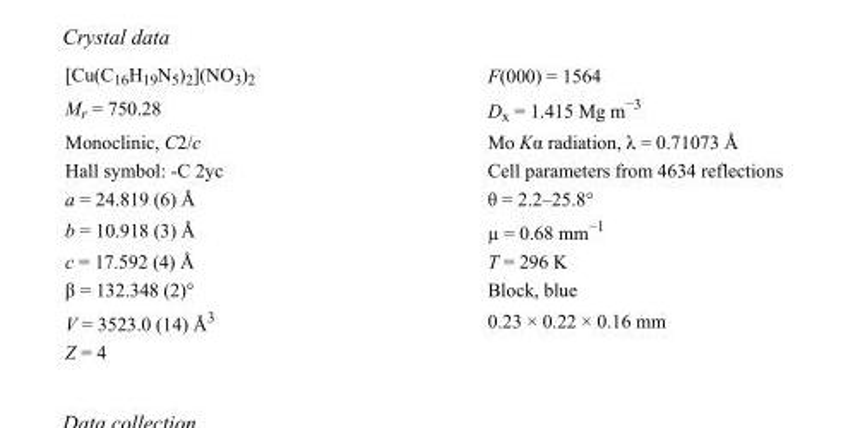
<table><tbody><tr><td>[Cu(C<sub>16</sub>H<sub>19</sub>N<sub>5</sub>)<sub>2</sub>](NO<sub>3</sub>)<sub>2</sub></td><td>F(000) = 1564</td></tr><tr><td>M<sub>r</sub> = 750.28</td><td>D<sub>x</sub> = 1.415 Mg m<sup>−3</sup></td></tr><tr><td>Monoclinic, C2/c</td><td>Mo Kα radiation, λ = 0.71073 Å</td></tr><tr><td>Hall symbol: -C 2yc</td><td>Cell parameters from 4634 reflections</td></tr><tr><td>a = 24.819 (6) Å</td><td>θ = 2.2–25.8°</td></tr><tr><td>b = 10.918 (3) Å</td><td>µ = 0.68 mm<sup>−1</sup></td></tr><tr><td>c = 17.592 (4) Å</td><td>T = 296 K</td></tr><tr><td>β = 132.348 (2)°</td><td>Block, blue</td></tr><tr><td>V = 3523.0 (14) Å<sup>3</sup></td><td>0.23 × 0.22 × 0.16 mm</td></tr><tr><td>Z = 4</td><td></td></tr></tbody></table>